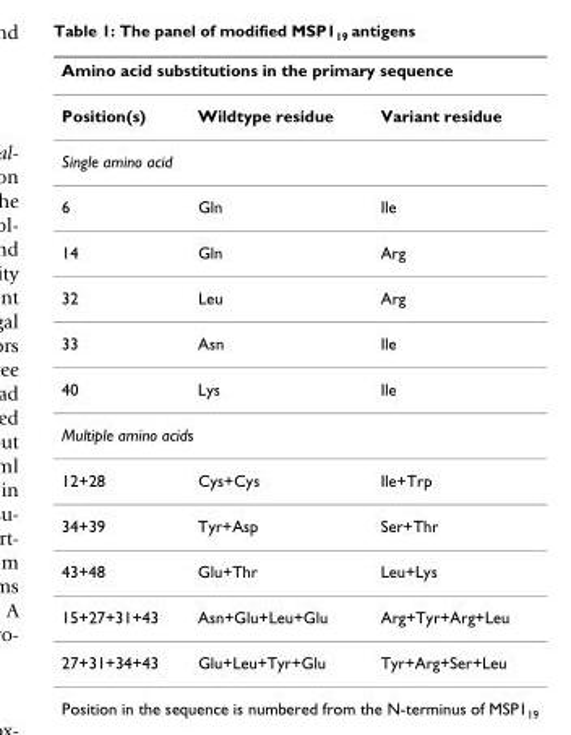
<table><thead><tr><td colspan="3">Amino acid substitutions in the primary sequence</td></tr><tr><td>Position(s)</td><td>Wildtype residue</td><td>Variant residue</td></tr></thead><tbody><tr><td colspan="3">Single amino acid</td></tr><tr><td>6</td><td>Gln</td><td>Ile</td></tr><tr><td>14</td><td>Gln</td><td>Arg</td></tr><tr><td>32</td><td>Leu</td><td>Arg</td></tr><tr><td>33</td><td>Asn</td><td>Ile</td></tr><tr><td>40</td><td>Lys</td><td>Ile</td></tr><tr><td colspan="3">Multiple amino acids</td></tr><tr><td>12+28</td><td>Cys+Cys</td><td>Ile+Trp</td></tr><tr><td>34+39</td><td>Tyr+Asp</td><td>Ser+Thr</td></tr><tr><td>43+48</td><td>Glu+Thr</td><td>Leu+Lys</td></tr><tr><td>15+27+31+43</td><td>Asn+Glu+Leu+Glu</td><td>Arg+Tyr+Arg+Leu</td></tr><tr><td>27+31+34+43</td><td>Glu+Leu+Tyr+Glu</td><td>Tyr+Arg+Ser+Leu</td></tr></tbody></table>